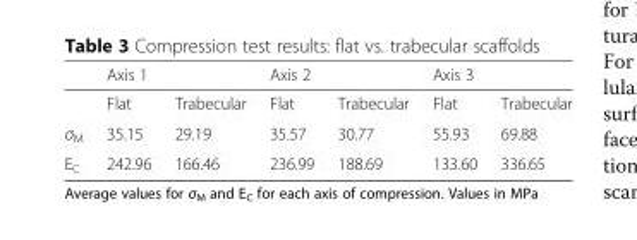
<table><thead><tr><td rowspan="2"></td><td colspan="2">Axis 1</td><td colspan="2">Axis 2</td><td colspan="2">Axis 3</td></tr><tr><td>Flat</td><td>Trabecular</td><td>Flat</td><td>Trabecular</td><td>Flat</td><td>Trabecular</td></tr></thead><tbody><tr><td>σ<sub>M</sub></td><td>35.15</td><td>29.19</td><td>35.57</td><td>30.77</td><td>55.93</td><td>69.88</td></tr><tr><td>E<sub>C</sub></td><td>242.96</td><td>166.46</td><td>236.99</td><td>188.69</td><td>133.60</td><td>336.65</td></tr></tbody></table>